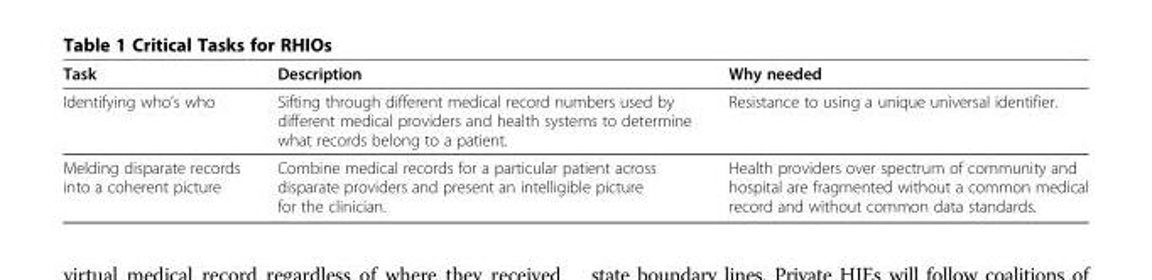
<table><thead><tr><td>Task</td><td>Description</td><td>Why needed</td></tr></thead><tbody><tr><td>Identifying who’s who</td><td>Sifting through different medical record numbers used by different medical providers and health systems to determine what records belong to a patient.</td><td>Resistance to using a unique universal identifier.</td></tr><tr><td>Melding disparate records into a coherent picture</td><td>Combine medical records for a particular patient across disparate providers and present an intelligible picture for the clinician.</td><td>Health providers over spectrum of community and hospital are fragmented without a common medical record and without common data standards.</td></tr></tbody></table>